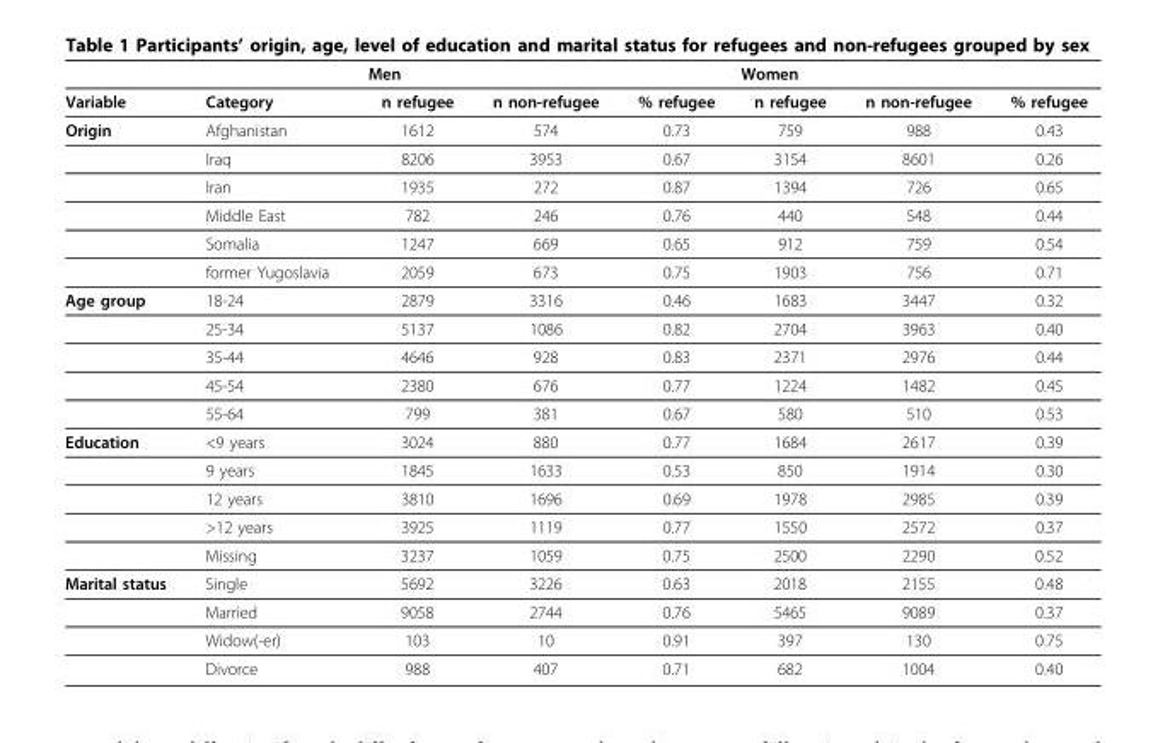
<table><thead><tr><td rowspan="2">Variable</td><td rowspan="2">Category</td><td colspan="3">Men</td><td colspan="3">Women</td></tr><tr><td>n refugee</td><td>n non-refugee</td><td>% refugee</td><td>n refugee</td><td>n non-refugee</td><td>% refugee</td></tr></thead><tbody><tr><td rowspan="6">Origin</td><td>Afghanistan</td><td>1612</td><td>574</td><td>0.73</td><td>759</td><td>988</td><td>0.43</td></tr><tr><td>Iraq</td><td>8206</td><td>3953</td><td>0.67</td><td>3154</td><td>8601</td><td>0.26</td></tr><tr><td>Iran</td><td>1935</td><td>272</td><td>0.87</td><td>1394</td><td>726</td><td>0.65</td></tr><tr><td>Middle East</td><td>782</td><td>246</td><td>0.76</td><td>440</td><td>548</td><td>0.44</td></tr><tr><td>Somalia</td><td>1247</td><td>669</td><td>0.65</td><td>912</td><td>759</td><td>0.54</td></tr><tr><td>former Yugoslavia</td><td>2059</td><td>673</td><td>0.75</td><td>1903</td><td>756</td><td>0.71</td></tr><tr><td rowspan="5">Age group</td><td>18-24</td><td>2879</td><td>3316</td><td>0.46</td><td>1683</td><td>3447</td><td>0.32</td></tr><tr><td>25-34</td><td>5137</td><td>1086</td><td>0.82</td><td>2704</td><td>3963</td><td>0.40</td></tr><tr><td>35-44</td><td>4646</td><td>928</td><td>0.83</td><td>2371</td><td>2976</td><td>0.44</td></tr><tr><td>45-54</td><td>2380</td><td>676</td><td>0.77</td><td>1224</td><td>1482</td><td>0.45</td></tr><tr><td>55-64</td><td>799</td><td>381</td><td>0.67</td><td>580</td><td>510</td><td>0.53</td></tr><tr><td rowspan="5">Education</td><td>&lt;9 years</td><td>3024</td><td>880</td><td>0.77</td><td>1684</td><td>2617</td><td>0.39</td></tr><tr><td>9 years</td><td>1845</td><td>1633</td><td>0.53</td><td>850</td><td>1914</td><td>0.30</td></tr><tr><td>12 years</td><td>3810</td><td>1696</td><td>0.69</td><td>1978</td><td>2985</td><td>0.39</td></tr><tr><td>&gt;12 years</td><td>3925</td><td>1119</td><td>0.77</td><td>1550</td><td>2572</td><td>0.37</td></tr><tr><td>Missing</td><td>3237</td><td>1059</td><td>0.75</td><td>2500</td><td>2290</td><td>0.52</td></tr><tr><td rowspan="4">Marital status</td><td>Single</td><td>5692</td><td>3226</td><td>0.63</td><td>2018</td><td>2155</td><td>0.48</td></tr><tr><td>Married</td><td>9058</td><td>2744</td><td>0.76</td><td>5465</td><td>9089</td><td>0.37</td></tr><tr><td>Widow(-er)</td><td>103</td><td>10</td><td>0.91</td><td>397</td><td>130</td><td>0.75</td></tr><tr><td>Divorce</td><td>988</td><td>407</td><td>0.71</td><td>682</td><td>1004</td><td>0.40</td></tr></tbody></table>